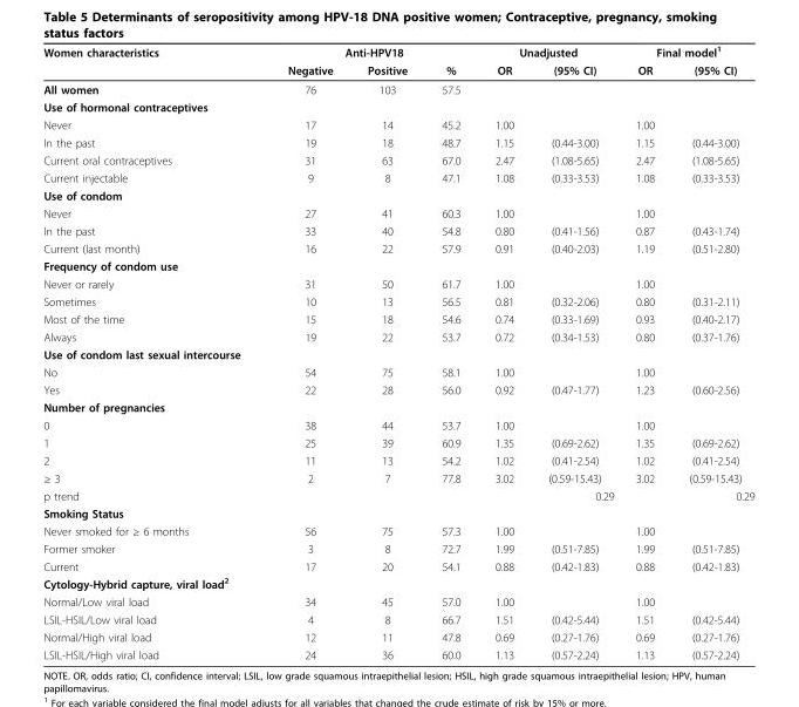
<table><thead><tr><td rowspan="2">Women characteristics</td><td colspan="3">Anti-HPV18</td><td colspan="2">Unadjusted</td><td colspan="2">Final model<sup>1</sup></td></tr><tr><td>Negative</td><td>Positive</td><td>%</td><td>OR</td><td>(95% CI)</td><td>OR</td><td>(95% CI)</td></tr></thead><tbody><tr><td>All women</td><td>76</td><td>103</td><td>57.5</td><td></td><td></td><td></td><td></td></tr><tr><td colspan="8">Use of hormonal contraceptives</td></tr><tr><td>Never</td><td>17</td><td>14</td><td>45.2</td><td>1.00</td><td></td><td>1.00</td><td></td></tr><tr><td>In the past</td><td>19</td><td>18</td><td>48.7</td><td>1.15</td><td>(0.44-3.00)</td><td>1.15</td><td>(0.44-3.00)</td></tr><tr><td>Current oral contraceptives</td><td>31</td><td>63</td><td>67.0</td><td>2.47</td><td>(1.08-5.65)</td><td>2.47</td><td>(1.08-5.65)</td></tr><tr><td>Current injectable</td><td>9</td><td>8</td><td>47.1</td><td>1.08</td><td>(0.33-3.53)</td><td>1.08</td><td>(0.33-3.53)</td></tr><tr><td colspan="8">Use of condom</td></tr><tr><td>Never</td><td>27</td><td>41</td><td>60.3</td><td>1.00</td><td></td><td>1.00</td><td></td></tr><tr><td>In the past</td><td>33</td><td>40</td><td>54.8</td><td>0.80</td><td>(0.41-1.56)</td><td>0.87</td><td>(0.43-1.74)</td></tr><tr><td>Current (last month)</td><td>16</td><td>22</td><td>57.9</td><td>0.91</td><td>(0.40-2.03)</td><td>1.19</td><td>(0.51-2.80)</td></tr><tr><td colspan="8">Frequency of condom use</td></tr><tr><td>Never or rarely</td><td>31</td><td>50</td><td>61.7</td><td>1.00</td><td></td><td>1.00</td><td></td></tr><tr><td>Sometimes</td><td>10</td><td>13</td><td>56.5</td><td>0.81</td><td>(0.32-2.06)</td><td>0.80</td><td>(0.31-2.11)</td></tr><tr><td>Most of the time</td><td>15</td><td>18</td><td>54.6</td><td>0.74</td><td>(0.33-1.69)</td><td>0.93</td><td>(0.40-2.17)</td></tr><tr><td>Always</td><td>19</td><td>22</td><td>53.7</td><td>0.72</td><td>(0.34-1.53)</td><td>0.80</td><td>(0.37-1.76)</td></tr><tr><td colspan="8">Use of condom last sexual intercourse</td></tr><tr><td>No</td><td>54</td><td>75</td><td>58.1</td><td>1.00</td><td></td><td>1.00</td><td></td></tr><tr><td>Yes</td><td>22</td><td>28</td><td>56.0</td><td>0.92</td><td>(0.47-1.77)</td><td>1.23</td><td>(0.60-2.56)</td></tr><tr><td colspan="8">Number of pregnancies</td></tr><tr><td>0</td><td>38</td><td>44</td><td>53.7</td><td>1.00</td><td></td><td>1.00</td><td></td></tr><tr><td>1</td><td>25</td><td>39</td><td>60.9</td><td>1.35</td><td>(0.69-2.62)</td><td>1.35</td><td>(0.69-2.62)</td></tr><tr><td>2</td><td>11</td><td>13</td><td>54.2</td><td>1.02</td><td>(0.41-2.54)</td><td>1.02</td><td>(0.41-2.54)</td></tr><tr><td>≥ 3</td><td>2</td><td>7</td><td>77.8</td><td>3.02</td><td>(0.59-15.43)</td><td>3.02</td><td>(0.59-15.43)</td></tr><tr><td>p trend</td><td></td><td></td><td></td><td></td><td>0.29</td><td></td><td>0.29</td></tr><tr><td colspan="8">Smoking Status</td></tr><tr><td>Never smoked for ≥ 6 months</td><td>56</td><td>75</td><td>57.3</td><td>1.00</td><td></td><td>1.00</td><td></td></tr><tr><td>Former smoker</td><td>3</td><td>8</td><td>72.7</td><td>1.99</td><td>(0.51-7.85)</td><td>1.99</td><td>(0.51-7.85)</td></tr><tr><td>Current</td><td>17</td><td>20</td><td>54.1</td><td>0.88</td><td>(0.42-1.83)</td><td>0.88</td><td>(0.42-1.83)</td></tr><tr><td colspan="8">Cytology-Hybrid capture, viral load<sup>2</sup></td></tr><tr><td>Normal/Low viral load</td><td>34</td><td>45</td><td>57.0</td><td>1.00</td><td></td><td>1.00</td><td></td></tr><tr><td>LSIL-HSIL/Low viral load</td><td>4</td><td>8</td><td>66.7</td><td>1.51</td><td>(0.42-5.44)</td><td>1.51</td><td>(0.42-5.44)</td></tr><tr><td>Normal/High viral load</td><td>12</td><td>11</td><td>47.8</td><td>0.69</td><td>(0.27-1.76)</td><td>0.69</td><td>(0.27-1.76)</td></tr><tr><td>LSIL-HSIL/High viral load</td><td>24</td><td>36</td><td>60.0</td><td>1.13</td><td>(0.57-2.24)</td><td>1.13</td><td>(0.57-2.24)</td></tr></tbody></table>